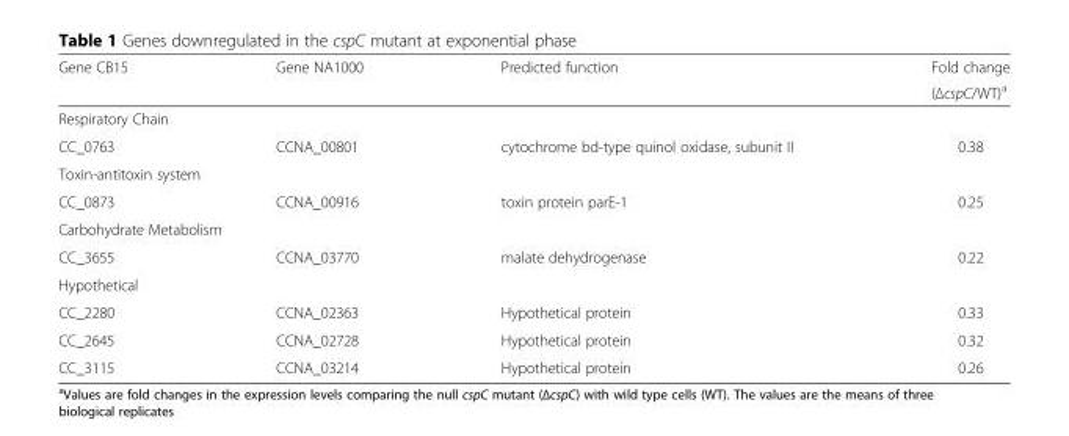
<table><thead><tr><td rowspan="2">Gene CB15</td><td rowspan="2">Gene NA1000</td><td rowspan="2">Predicted function</td><td rowspan="2">Fold change (ΔcspC/WT)a</td></tr><tr></tr></thead><tbody><tr><td colspan="4">Respiratory Chain</td></tr><tr><td>CC_0763</td><td>CCNA_00801</td><td>cytochrome bd-type quinol oxidase, subunit II</td><td>0.38</td></tr><tr><td colspan="4">Toxin-antitoxin system</td></tr><tr><td>CC_0873</td><td>CCNA_00916</td><td>toxin protein parE-1</td><td>0.25</td></tr><tr><td colspan="4">Carbohydrate Metabolism</td></tr><tr><td>CC_3655</td><td>CCNA_03770</td><td>malate dehydrogenase</td><td>0.22</td></tr><tr><td colspan="4">Hypothetical</td></tr><tr><td>CC_2280</td><td>CCNA_02363</td><td>Hypothetical protein</td><td>0.33</td></tr><tr><td>CC_2645</td><td>CCNA_02728</td><td>Hypothetical protein</td><td>0.32</td></tr><tr><td>CC_3115</td><td>CCNA_03214</td><td>Hypothetical protein</td><td>0.26</td></tr></tbody></table>